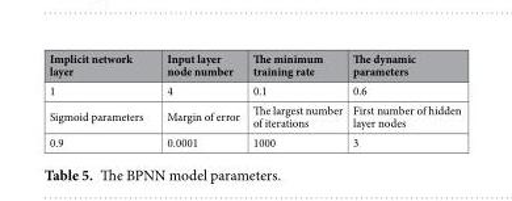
<table><thead><tr><td>Implicit network layer</td><td>Input layer node number</td><td>The minimum training rate</td><td>The dynamic parameters</td></tr></thead><tbody><tr><td>1</td><td>4</td><td>0.1</td><td>0.6</td></tr><tr><td>Sigmoid parameters</td><td>Margin of error</td><td>The largest number of iterations</td><td>First number of hidden layer nodes</td></tr><tr><td>0.9</td><td>0.0001</td><td>1000</td><td>3</td></tr></tbody></table>